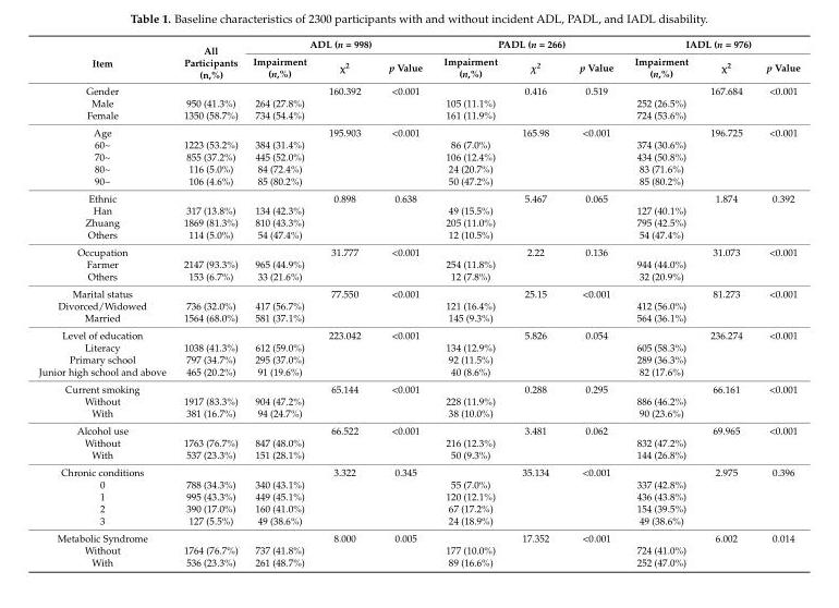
<table><thead><tr><td rowspan="2">Item</td><td rowspan="2">All Participants (n,%)</td><td colspan="3">ADL (n = 998)</td><td colspan="3">PADL (n = 266)</td><td colspan="3">IADL (n = 976)</td></tr><tr><td>Impairment (n,%)</td><td>χ<sup>2</sup></td><td>p Value</td><td>Impairment (n,%)</td><td>χ<sup>2</sup></td><td>p Value</td><td>Impairment (n,%)</td><td>χ<sup>2</sup></td><td>p Value</td></tr></thead><tbody><tr><td>Gender</td><td></td><td></td><td>160.392</td><td>&lt;0.001</td><td></td><td>0.416</td><td>0.519</td><td></td><td>167.684</td><td>&lt;0.001</td></tr><tr><td>Male</td><td>950 (41.3%)</td><td>264 (27.8%)</td><td></td><td></td><td>105 (11.1%)</td><td></td><td></td><td>252 (26.5%)</td><td></td><td></td></tr><tr><td>Female</td><td>1350 (58.7%)</td><td>734 (54.4%)</td><td></td><td></td><td>161 (11.9%)</td><td></td><td></td><td>724 (53.6%)</td><td></td><td></td></tr><tr><td>Age</td><td></td><td></td><td>195.903</td><td>&lt;0.001</td><td></td><td>165.98</td><td>&lt;0.001</td><td></td><td>196.725</td><td>&lt;0.001</td></tr><tr><td>60~</td><td>1223 (53.2%)</td><td>384 (31.4%)</td><td></td><td></td><td>86 (7.0%)</td><td></td><td></td><td>374 (30.6%)</td><td></td><td></td></tr><tr><td>70~</td><td>855 (37.2%)</td><td>445 (52.0%)</td><td></td><td></td><td>106 (12.4%)</td><td></td><td></td><td>434 (50.8%)</td><td></td><td></td></tr><tr><td>80~</td><td>116 (5.0%)</td><td>84 (72.4%)</td><td></td><td></td><td>24 (20.7%)</td><td></td><td></td><td>83 (71.6%)</td><td></td><td></td></tr><tr><td>90~</td><td>106 (4.6%)</td><td>85 (80.2%)</td><td></td><td></td><td>50 (47.2%)</td><td></td><td></td><td>85 (80.2%)</td><td></td><td></td></tr><tr><td>Ethnic</td><td></td><td></td><td>0.898</td><td>0.638</td><td></td><td>5.467</td><td>0.065</td><td></td><td>1.874</td><td>0.392</td></tr><tr><td>Han</td><td>317 (13.8%)</td><td>134 (42.3%)</td><td></td><td></td><td>49 (15.5%)</td><td></td><td></td><td>127 (40.1%)</td><td></td><td></td></tr><tr><td>Zhuang</td><td>1869 (81.3%)</td><td>810 (43.3%)</td><td></td><td></td><td>205 (11.0%)</td><td></td><td></td><td>795 (42.5%)</td><td></td><td></td></tr><tr><td>Others</td><td>114 (5.0%)</td><td>54 (47.4%)</td><td></td><td></td><td>12 (10.5%)</td><td></td><td></td><td>54 (47.4%)</td><td></td><td></td></tr><tr><td>Occupation</td><td></td><td></td><td>31.777</td><td>&lt;0.001</td><td></td><td>2.22</td><td>0.136</td><td></td><td>31.073</td><td>&lt;0.001</td></tr><tr><td>Farmer</td><td>2147 (93.3%)</td><td>965 (44.9%)</td><td></td><td></td><td>254 (11.8%)</td><td></td><td></td><td>944 (44.0%)</td><td></td><td></td></tr><tr><td>Others</td><td>153 (6.7%)</td><td>33 (21.6%)</td><td></td><td></td><td>12 (7.8%)</td><td></td><td></td><td>32 (20.9%)</td><td></td><td></td></tr><tr><td>Marital status</td><td></td><td></td><td>77.550</td><td>&lt;0.001</td><td></td><td>25.15</td><td>&lt;0.001</td><td></td><td>81.273</td><td>&lt;0.001</td></tr><tr><td>Divorced/Widowed</td><td>736 (32.0%)</td><td>417 (56.7%)</td><td></td><td></td><td>121 (16.4%)</td><td></td><td></td><td>412 (56.0%)</td><td></td><td></td></tr><tr><td>Married</td><td>1564 (68.0%)</td><td>581 (37.1%)</td><td></td><td></td><td>145 (9.3%)</td><td></td><td></td><td>564 (36.1%)</td><td></td><td></td></tr><tr><td>Level of education</td><td></td><td></td><td>223.042</td><td>&lt;0.001</td><td></td><td>5.826</td><td>0.054</td><td></td><td>236.274</td><td>&lt;0.001</td></tr><tr><td>Literacy</td><td>1038 (41.3%)</td><td>612 (59.0%)</td><td></td><td></td><td>134 (12.9%)</td><td></td><td></td><td>605 (58.3%)</td><td></td><td></td></tr><tr><td>Primary school</td><td>797 (34.7%)</td><td>295 (37.0%)</td><td></td><td></td><td>92 (11.5%)</td><td></td><td></td><td>289 (36.3%)</td><td></td><td></td></tr><tr><td>Junior high school and above</td><td>465 (20.2%)</td><td>91 (19.6%)</td><td></td><td></td><td>40 (8.6%)</td><td></td><td></td><td>82 (17.6%)</td><td></td><td></td></tr><tr><td>Current smoking</td><td></td><td></td><td>65.144</td><td>&lt;0.001</td><td></td><td>0.288</td><td>0.295</td><td></td><td>66.161</td><td>&lt;0.001</td></tr><tr><td>Without</td><td>1917 (83.3%)</td><td>904 (47.2%)</td><td></td><td></td><td>228 (11.9%)</td><td></td><td></td><td>886 (46.2%)</td><td></td><td></td></tr><tr><td>With</td><td>381 (16.7%)</td><td>94 (24.7%)</td><td></td><td></td><td>38 (10.0%)</td><td></td><td></td><td>90 (23.6%)</td><td></td><td></td></tr><tr><td>Alcohol use</td><td></td><td></td><td>66.522</td><td>&lt;0.001</td><td></td><td>3.481</td><td>0.062</td><td></td><td>69.965</td><td>&lt;0.001</td></tr><tr><td>Without</td><td>1763 (76.7%)</td><td>847 (48.0%)</td><td></td><td></td><td>216 (12.3%)</td><td></td><td></td><td>832 (47.2%)</td><td></td><td></td></tr><tr><td>With</td><td>537 (23.3%)</td><td>151 (28.1%)</td><td></td><td></td><td>50 (9.3%)</td><td></td><td></td><td>144 (26.8%)</td><td></td><td></td></tr><tr><td>Chronic conditions</td><td></td><td></td><td>3.322</td><td>0.345</td><td></td><td>35.134</td><td>&lt;0.001</td><td></td><td>2.975</td><td>0.396</td></tr><tr><td>0</td><td>788 (34.3%)</td><td>340 (43.1%)</td><td></td><td></td><td>55 (7.0%)</td><td></td><td></td><td>337 (42.8%)</td><td></td><td></td></tr><tr><td>1</td><td>995 (43.3%)</td><td>449 (45.1%)</td><td></td><td></td><td>120 (12.1%)</td><td></td><td></td><td>436 (43.8%)</td><td></td><td></td></tr><tr><td>2</td><td>390 (17.0%)</td><td>160 (41.0%)</td><td></td><td></td><td>67 (17.2%)</td><td></td><td></td><td>154 (39.5%)</td><td></td><td></td></tr><tr><td>3</td><td>127 (5.5%)</td><td>49 (38.6%)</td><td></td><td></td><td>24 (18.9%)</td><td></td><td></td><td>49 (38.6%)</td><td></td><td></td></tr><tr><td>Metabolic Syndrome</td><td></td><td></td><td>8.000</td><td>0.005</td><td></td><td>17.352</td><td>&lt;0.001</td><td></td><td>6.002</td><td>0.014</td></tr><tr><td>Without</td><td>1764 (76.7%)</td><td>737 (41.8%)</td><td></td><td></td><td>177 (10.0%)</td><td></td><td></td><td>724 (41.0%)</td><td></td><td></td></tr><tr><td>With</td><td>536 (23.3%)</td><td>261 (48.7%)</td><td></td><td></td><td>89 (16.6%)</td><td></td><td></td><td>252 (47.0%)</td><td></td><td></td></tr></tbody></table>